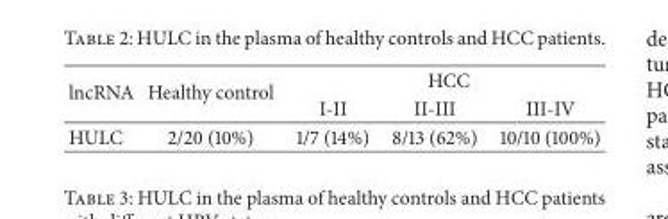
<table><thead><tr><td rowspan="2">lncRNA</td><td rowspan="2">Healthy control</td><td colspan="3">HCC</td></tr><tr><td>I-II</td><td>II-III</td><td>III-IV</td></tr></thead><tbody><tr><td>HULC</td><td>2/20 (10%)</td><td>1/7 (14%)</td><td>8/13 (62%)</td><td>10/10 (100%)</td></tr></tbody></table>